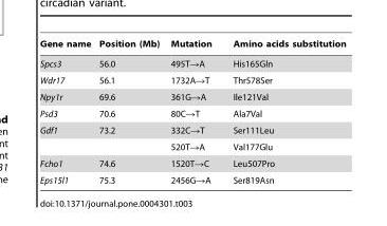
<table><thead><tr><td>Gene name</td><td>Position (Mb)</td><td>Mutation</td><td>Amino acids substitution</td></tr></thead><tbody><tr><td>Spcs3</td><td>56.0</td><td>495T→A</td><td>His165Gln</td></tr><tr><td>Wdr17</td><td>56.1</td><td>1732A→T</td><td>Thr578Ser</td></tr><tr><td>Npy1r</td><td>69.6</td><td>361G→A</td><td>Ile121Val</td></tr><tr><td>Psd3</td><td>70.6</td><td>80C→T</td><td>Ala7Val</td></tr><tr><td rowspan="2">Gdf1</td><td>73.2</td><td>332C→T</td><td>Ser111Leu</td></tr><tr><td></td><td>520T→A</td><td>Val177Glu</td></tr><tr><td>Fcho1</td><td>74.6</td><td>1520T→C</td><td>Leu507Pro</td></tr><tr><td>Eps15l1</td><td>75.3</td><td>2456G→A</td><td>Ser819Asn</td></tr></tbody></table>